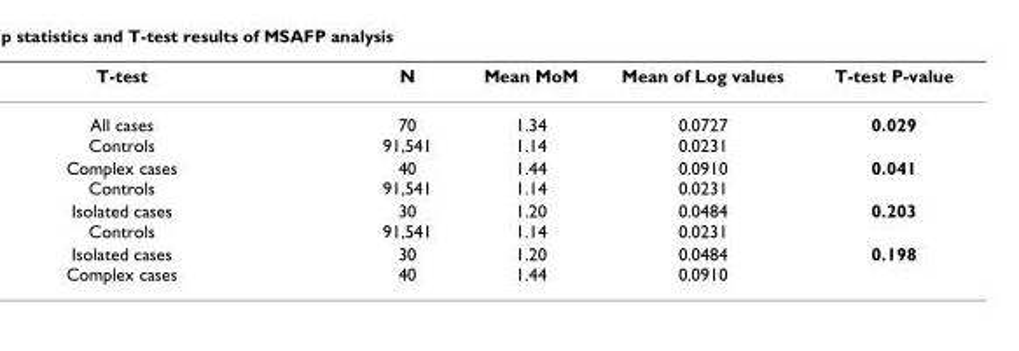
<table><thead><tr><td>T-test</td><td>N</td><td>Mean MoM</td><td>Mean of Log values</td><td>T-test P-value</td></tr></thead><tbody><tr><td>All cases Controls</td><td>70 91,541</td><td>1.34 1.14</td><td>0.0727 0.0231</td><td>0.029</td></tr><tr><td>Complex cases Controls</td><td>40 91,541</td><td>1.44 1.14</td><td>0.0910 0.0231</td><td>0.041</td></tr><tr><td>Isolated cases Controls</td><td>30 91,541</td><td>1.20 1.14</td><td>0.0484 0.0231</td><td>0.203</td></tr><tr><td>Isolated cases Complex cases</td><td>30 40</td><td>1.20 1.44</td><td>0.0484 0.0910</td><td>0.198</td></tr></tbody></table>